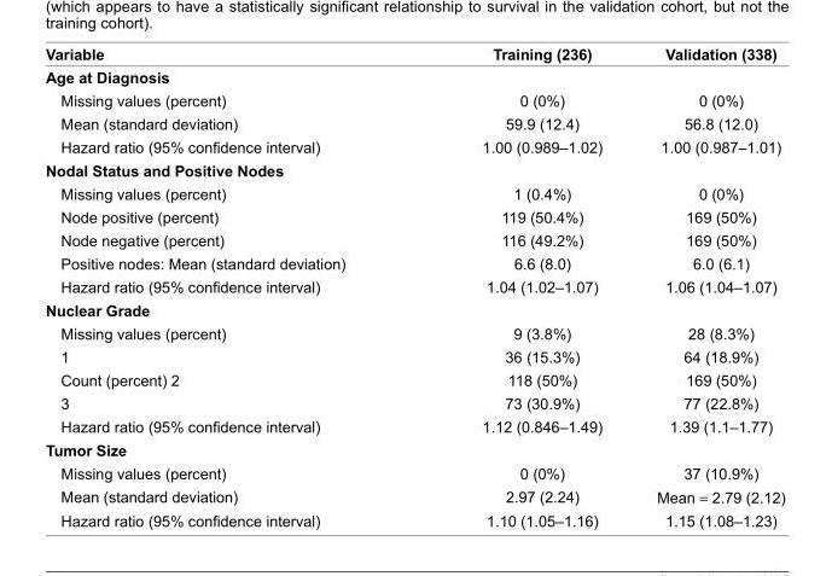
<table><thead><tr><td>Variable</td><td>Training (236)</td><td>Validation (338)</td></tr></thead><tbody><tr><td colspan="3">Age at Diagnosis</td></tr><tr><td>Missing values (percent)</td><td>0 (0%)</td><td>0 (0%)</td></tr><tr><td>Mean (standard deviation)</td><td>59.9 (12.4)</td><td>56.8 (12.0)</td></tr><tr><td>Hazard ratio (95% confi dence interval)</td><td>1.00 (0.989–1.02)</td><td>1.00 (0.987–1.01)</td></tr><tr><td colspan="3">Nodal Status and Positive Nodes</td></tr><tr><td>Missing values (percent)</td><td>1 (0.4%)</td><td>0 (0%)</td></tr><tr><td>Node positive (percent)</td><td>119 (50.4%)</td><td>169 (50%)</td></tr><tr><td>Node negative (percent)</td><td>116 (49.2%)</td><td>169 (50%)</td></tr><tr><td>Positive nodes: Mean (standard deviation)</td><td>6.6 (8.0)</td><td>6.0 (6.1)</td></tr><tr><td>Hazard ratio (95% confi dence interval)</td><td>1.04 (1.02–1.07)</td><td>1.06 (1.04–1.07)</td></tr><tr><td colspan="3">Nuclear Grade</td></tr><tr><td>Missing values (percent)</td><td>9 (3.8%)</td><td>28 (8.3%)</td></tr><tr><td>1</td><td>36 (15.3%)</td><td>64 (18.9%)</td></tr><tr><td>Count (percent) 2</td><td>118 (50%)</td><td>169 (50%)</td></tr><tr><td>3</td><td>73 (30.9%)</td><td>77 (22.8%)</td></tr><tr><td>Hazard ratio (95% confi dence interval)</td><td>1.12 (0.846–1.49)</td><td>1.39 (1.1–1.77)</td></tr><tr><td colspan="3">Tumor Size</td></tr><tr><td>Missing values (percent)</td><td>0 (0%)</td><td>37 (10.9%)</td></tr><tr><td>Mean (standard deviation)</td><td>2.97 (2.24)</td><td>Mean = 2.79 (2.12)</td></tr><tr><td>Hazard ratio (95% confi dence interval)</td><td>1.10 (1.05–1.16)</td><td>1.15 (1.08–1.23)</td></tr></tbody></table>